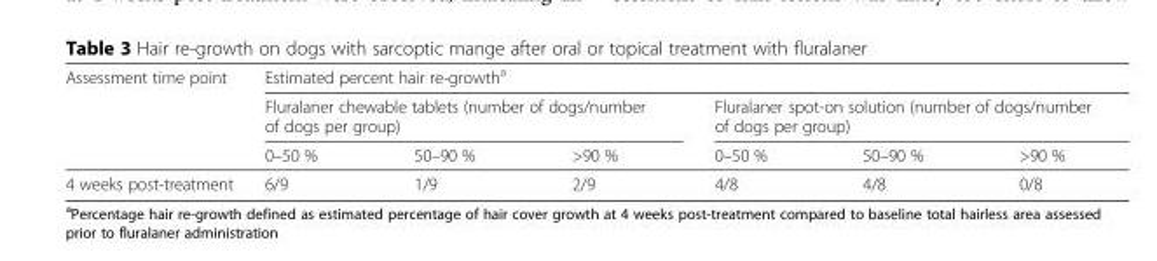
<table><thead><tr><td rowspan="3">Assessment time point</td><td colspan="6">Estimated percent hair re-growth<sup>a</sup></td></tr><tr><td colspan="3">Fluralaner chewable tablets (number of dogs/number of dogs per group)</td><td colspan="3">Fluralaner spot-on solution (number of dogs/number of dogs per group)</td></tr><tr><td>0–50 %</td><td>50–90 %</td><td>&gt;90 %</td><td>0–50 %</td><td>50–90 %</td><td>&gt;90 %</td></tr></thead><tbody><tr><td>4 weeks post-treatment</td><td>6/9</td><td>1/9</td><td>2/9</td><td>4/8</td><td>4/8</td><td>0/8</td></tr></tbody></table>